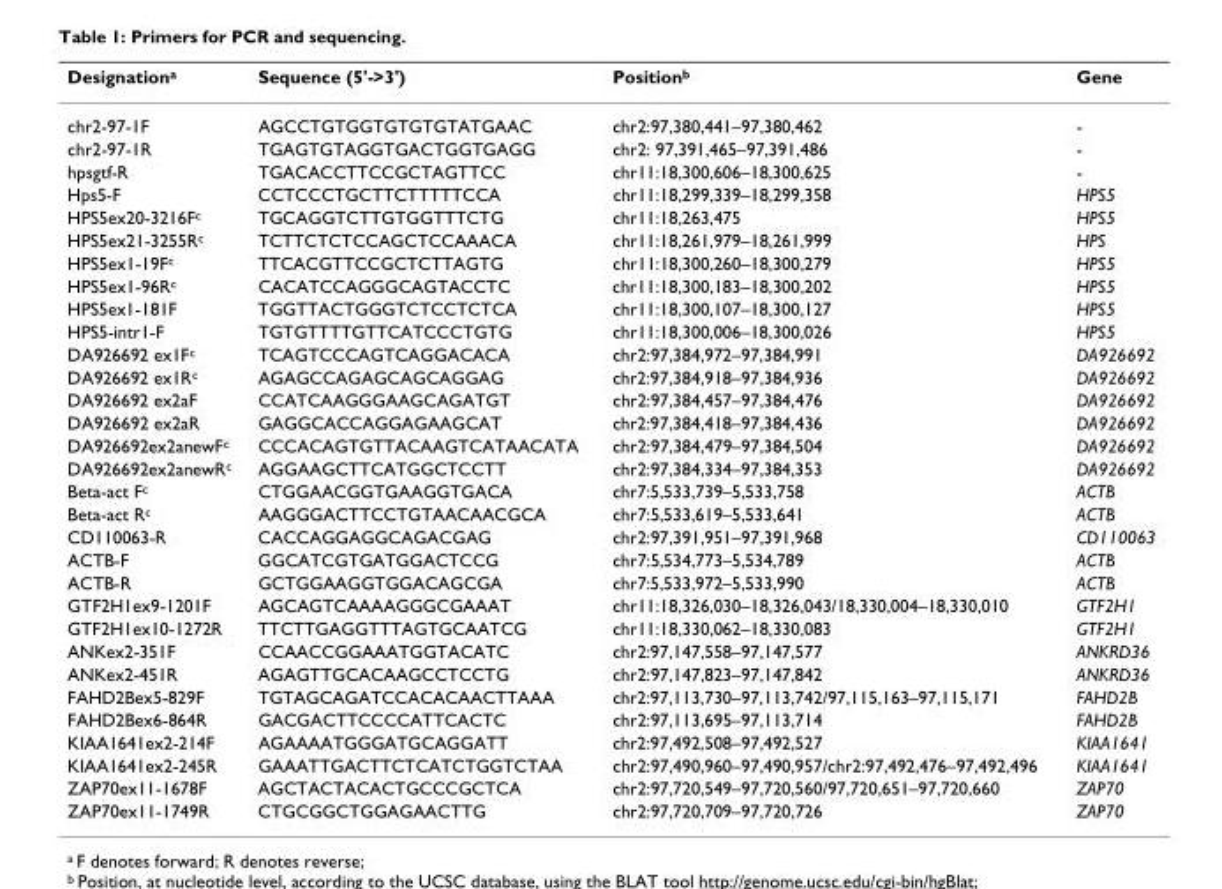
<table><thead><tr><td>Designation<sup>a</sup></td><td>Sequence (5&#x27;-&gt;3&#x27;)</td><td>Position<sup>b</sup></td><td>Gene</td></tr></thead><tbody><tr><td>chr2-97-1F</td><td>AGCCTGTGGTGTGTGTATGAAC</td><td>chr2:97,380,441–97,380,462</td><td>-</td></tr><tr><td>chr2-97-1R</td><td>TGAGTGTAGGTGACTGGTGAGG</td><td>chr2: 97,391,465–97,391,486</td><td>-</td></tr><tr><td>hpsgtf-R</td><td>TGACACCTTCCGCTAGTTCC</td><td>chr11:18,300,606–18,300,625</td><td>-</td></tr><tr><td>Hps5-F</td><td>CCTCCCTGCTTCTTTTTCCA</td><td>chr11:18,299,339–18,299,358</td><td>HPS5</td></tr><tr><td>HPS5ex20-3216F<sup>c</sup></td><td>TGCAGGTCTTGTGGTTTCTG</td><td>chr11:18,263,475</td><td>HPS5</td></tr><tr><td>HPS5ex21-3255R<sup>c</sup></td><td>TCTTCTCTCCAGCTCCAAACA</td><td>chr11:18,261,979–18,261,999</td><td>HPS</td></tr><tr><td>HPS5ex1-19F<sup>c</sup></td><td>TTCACGTTCCGCTCTTAGTG</td><td>chr11:18,300,260–18,300,279</td><td>HPS5</td></tr><tr><td>HPS5ex1-96R<sup>c</sup></td><td>CACATCCAGGGCAGTACCTC</td><td>chr11:18,300,183–18,300,202</td><td>HPS5</td></tr><tr><td>HPS5ex1-181F</td><td>TGGTTACTGGGTCTCCTCTCA</td><td>chr11:18,300,107–18,300,127</td><td>HPS5</td></tr><tr><td>HPS5-intr1-F</td><td>TGTGTTTTGTTCATCCCTGTG</td><td>chr11:18,300,006–18,300,026</td><td>HPS5</td></tr><tr><td>DA926692 ex1F<sup>c</sup></td><td>TCAGTCCCAGTCAGGACACA</td><td>chr2:97,384,972–97,384,991</td><td>DA926692</td></tr><tr><td>DA926692 ex1R<sup>c</sup></td><td>AGAGCCAGAGCAGCAGGAG</td><td>chr2:97,384,918–97,384,936</td><td>DA926692</td></tr><tr><td>DA926692 ex2aF</td><td>CCATCAAGGGAAGCAGATGT</td><td>chr2:97,384,457–97,384,476</td><td>DA926692</td></tr><tr><td>DA926692 ex2aR</td><td>GAGGCACCAGGAGAAGCAT</td><td>chr2:97,384,418–97,384,436</td><td>DA926692</td></tr><tr><td>DA926692ex2anewF<sup>c</sup></td><td>CCCACAGTGTTACAAGTCATAACATA</td><td>chr2:97,384,479–97,384,504</td><td>DA926692</td></tr><tr><td>DA926692ex2anewR<sup>c</sup></td><td>AGGAAGCTTCATGGCTCCTT</td><td>chr2:97,384,334–97,384,353</td><td>DA926692</td></tr><tr><td>Beta-act F<sup>c</sup></td><td>CTGGAACGGTGAAGGTGACA</td><td>chr7:5,533,739–5,533,758</td><td>ACTB</td></tr><tr><td>Beta-act R<sup>c</sup></td><td>AAGGGACTTCCTGTAACAACGCA</td><td>chr7:5,533,619–5,533,641</td><td>ACTB</td></tr><tr><td>CD110063-R</td><td>CACCAGGAGGCAGACGAG</td><td>chr2:97,391,951–97,391,968</td><td>CD110063</td></tr><tr><td>ACTB-F</td><td>GGCATCGTGATGGACTCCG</td><td>chr7:5,534,773–5,534,789</td><td>ACTB</td></tr><tr><td>ACTB-R</td><td>GCTGGAAGGTGGACAGCGA</td><td>chr7:5,533,972–5,533,990</td><td>ACTB</td></tr><tr><td>GTF2H1ex9-1201F</td><td>AGCAGTCAAAAGGGCGAAAT</td><td>chr11:18,326,030–18,326,043/18,330,004–18,330,010</td><td>GTF2H1</td></tr><tr><td>GTF2H1ex10-1272R</td><td>TTCTTGAGGTTTAGTGCAATCG</td><td>chr11:18,330,062–18,330,083</td><td>GTF2H1</td></tr><tr><td>ANKex2-351F</td><td>CCAACCGGAAATGGTACATC</td><td>chr2:97,147,558–97,147,577</td><td>ANKRD36</td></tr><tr><td>ANKex2-451R</td><td>AGAGTTGCACAAGCCTCCTG</td><td>chr2:97,147,823–97,147,842</td><td>ANKRD36</td></tr><tr><td>FAHD2Bex5-829F</td><td>TGTAGCAGATCCACACAACTTAAA</td><td>chr2:97,113,730–97,113,742/97,115,163–97,115,171</td><td>FAHD2B</td></tr><tr><td>FAHD2Bex6-864R</td><td>GACGACTTCCCCATTCACTC</td><td>chr2:97,113,695–97,113,714</td><td>FAHD2B</td></tr><tr><td>KIAA1641ex2-214F</td><td>AGAAAATGGGATGCAGGATT</td><td>chr2:97,492,508–97,492,527</td><td>KIAA1641</td></tr><tr><td>KIAA1641ex2-245R</td><td>GAAATTGACTTCTCATCTGGTCTAA</td><td>chr2:97,490,960–97,490,957/chr2:97,492,476–97,492,496</td><td>KIAA1641</td></tr><tr><td>ZAP70ex11-1678F</td><td>AGCTACTACACTGCCCGCTCA</td><td>chr2:97,720,549–97,720,560/97,720,651–97,720,660</td><td>ZAP70</td></tr><tr><td>ZAP70ex11-1749R</td><td>CTGCGGCTGGAGAACTTG</td><td>chr2:97,720,709–97,720,726</td><td>ZAP70</td></tr></tbody></table>